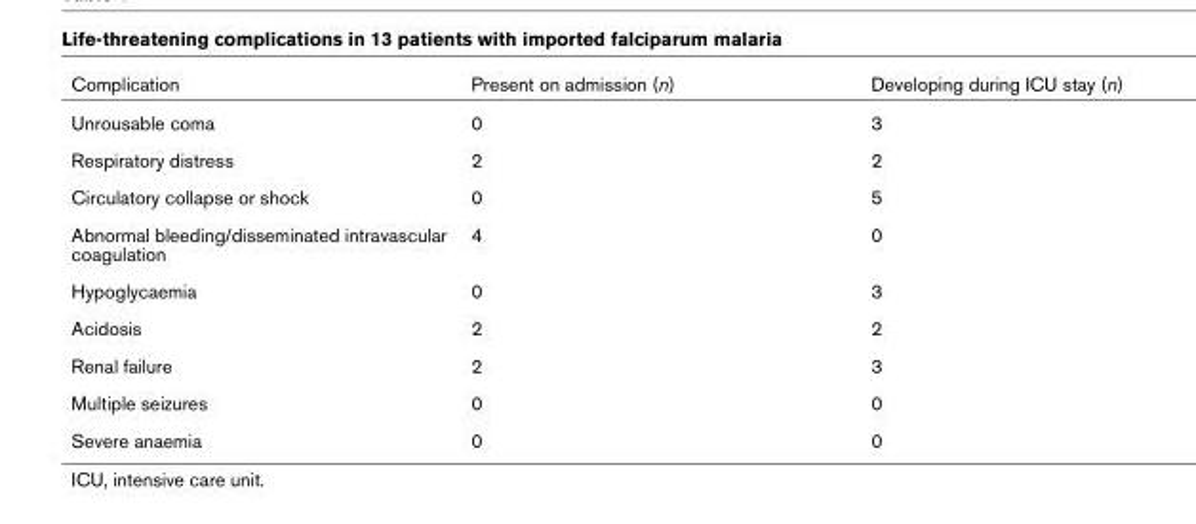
<table><thead><tr><td>Complication</td><td>Present on admission (n)</td><td>Developing during ICU stay (n)</td></tr></thead><tbody><tr><td>Unrousable coma</td><td>0</td><td>3</td></tr><tr><td>Respiratory distress</td><td>2</td><td>2</td></tr><tr><td>Circulatory collapse or shock</td><td>0</td><td>5</td></tr><tr><td>Abnormal bleeding/disseminated intravascular coagulation</td><td>4</td><td>0</td></tr><tr><td>Hypoglycaemia</td><td>0</td><td>3</td></tr><tr><td>Acidosis</td><td>2</td><td>2</td></tr><tr><td>Renal failure</td><td>2</td><td>3</td></tr><tr><td>Multiple seizures</td><td>0</td><td>0</td></tr><tr><td>Severe anaemia</td><td>0</td><td>0</td></tr></tbody></table>